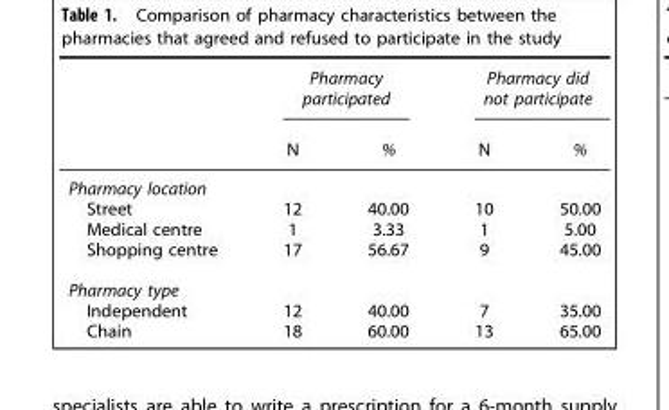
<table><thead><tr><td rowspan="2"></td><td colspan="2">Pharmacy participated</td><td colspan="2">Pharmacy did not participate</td></tr><tr><td>N</td><td>%</td><td>N</td><td>%</td></tr></thead><tbody><tr><td colspan="5">Pharmacy location</td></tr><tr><td>Street</td><td>12</td><td>40.00</td><td>10</td><td>50.00</td></tr><tr><td>Medical centre</td><td>1</td><td>3.33</td><td>1</td><td>5.00</td></tr><tr><td>Shopping centre</td><td>17</td><td>56.67</td><td>9</td><td>45.00</td></tr><tr><td colspan="5">Pharmacy type</td></tr><tr><td>Independent</td><td>12</td><td>40.00</td><td>7</td><td>35.00</td></tr><tr><td>Chain</td><td>18</td><td>60.00</td><td>13</td><td>65.00</td></tr></tbody></table>